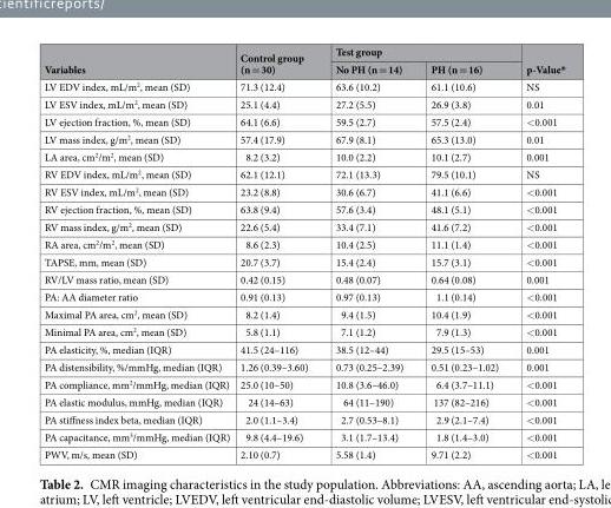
<table><thead><tr><td rowspan="2">Variables</td><td rowspan="2">Control group (n = 30)</td><td colspan="2">Test group</td><td rowspan="2">p-Value*</td></tr><tr><td>No PH (n = 14)</td><td>PH (n = 16)</td></tr></thead><tbody><tr><td>LV EDV index, mL/m<sup>2</sup>, mean (SD)</td><td>71.3 (12.4)</td><td>63.6 (10.2)</td><td>61.1 (10.6)</td><td>NS</td></tr><tr><td>LV ESV index, mL/m<sup>2</sup>, mean (SD)</td><td>25.1 (4.4)</td><td>27.2 (5.5)</td><td>26.9 (3.8)</td><td>0.01</td></tr><tr><td>LV ejection fraction, %, mean (SD)</td><td>64.1 (6.6)</td><td>59.5 (2.7)</td><td>57.5 (2.4)</td><td>&lt;0.001</td></tr><tr><td>LV mass index, g/m<sup>2</sup>, mean (SD)</td><td>57.4 (17.9)</td><td>67.9 (8.1)</td><td>65.3 (13.0)</td><td>0.01</td></tr><tr><td>LA area, cm<sup>2</sup>/m<sup>2</sup>, mean (SD)</td><td>8.2 (3.2)</td><td>10.0 (2.2)</td><td>10.1 (2.7)</td><td>0.001</td></tr><tr><td>RV EDV index, mL/m<sup>2</sup>, mean (SD)</td><td>62.1 (12.1)</td><td>72.1 (13.3)</td><td>79.5 (10.1)</td><td>NS</td></tr><tr><td>RV ESV index, mL/m<sup>2</sup>, mean (SD)</td><td>23.2 (8.8)</td><td>30.6 (6.7)</td><td>41.1 (6.6)</td><td>&lt;0.001</td></tr><tr><td>RV ejection fraction, %, mean (SD)</td><td>63.8 (9.4)</td><td>57.6 (3.4)</td><td>48.1 (5.1)</td><td>&lt;0.001</td></tr><tr><td>RV mass index, g/m<sup>2</sup>, mean (SD)</td><td>22.6 (5.4)</td><td>33.4 (7.1)</td><td>41.6 (7.2)</td><td>&lt;0.001</td></tr><tr><td>RA area, cm<sup>2</sup>/m<sup>2</sup>, mean (SD)</td><td>8.6 (2.3)</td><td>10.4 (2.5)</td><td>11.1 (1.4)</td><td>&lt;0.001</td></tr><tr><td>TAPSE, mm, mean (SD)</td><td>20.7 (3.7)</td><td>15.4 (2.4)</td><td>15.7 (3.1)</td><td>&lt;0.001</td></tr><tr><td>RV/LV mass ratio, mean (SD)</td><td>0.42 (0.15)</td><td>0.48 (0.07)</td><td>0.64 (0.08)</td><td>0.001</td></tr><tr><td>PA: AA diameter ratio</td><td>0.91 (0.13)</td><td>0.97 (0.13)</td><td>1.1 (0.14)</td><td>&lt;0.001</td></tr><tr><td>Maximal PA area, cm<sup>2</sup>, mean (SD)</td><td>8.2 (1.4)</td><td>9.4 (1.5)</td><td>10.4 (1.9)</td><td>&lt;0.001</td></tr><tr><td>Minimal PA area, cm<sup>2</sup>, mean (SD)</td><td>5.8 (1.1)</td><td>7.1 (1.2)</td><td>7.9 (1.3)</td><td>&lt;0.001</td></tr><tr><td>PA elasticity, %, median (IQR)</td><td>41.5 (24–116)</td><td>38.5 (12–44)</td><td>29.5 (15–53)</td><td>0.001</td></tr><tr><td>PA distensibility, %/mmHg, median (IQR)</td><td>1.26 (0.39–3.60)</td><td>0.73 (0.25–2.39)</td><td>0.51 (0.23–1.02)</td><td>0.001</td></tr><tr><td>PA compliance, mm<sup>2</sup>/mmHg, median (IQR)</td><td>25.0 (10–50)</td><td>10.8 (3.6–46.0)</td><td>6.4 (3.7–11.1)</td><td>&lt;0.001</td></tr><tr><td>PA elastic modulus, mmHg, median (IQR)</td><td>24 (14–63)</td><td>64 (11–190)</td><td>137 (82–216)</td><td>&lt;0.001</td></tr><tr><td>PA stiffness index beta, median (IQR)</td><td>2.0 (1.1–3.4)</td><td>2.7 (0.53–8.1)</td><td>2.9 (2.1–7.4)</td><td>&lt;0.001</td></tr><tr><td>PA capacitance, mm<sup>3</sup>/mmHg, median (IQR)</td><td>9.8 (4.4–19.6)</td><td>3.1 (1.7–13.4)</td><td>1.8 (1.4–3.0)</td><td>&lt;0.001</td></tr><tr><td>PWV, m/s, mean (SD)</td><td>2.10 (0.7)</td><td>5.58 (1.4)</td><td>9.71 (2.2)</td><td>&lt;0.001</td></tr></tbody></table>